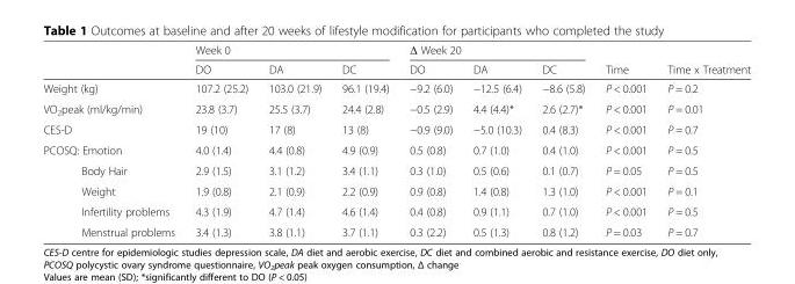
<table><thead><tr><td rowspan="2"></td><td colspan="3">Week 0</td><td colspan="3">Δ Week 20</td><td rowspan="2">Time</td><td rowspan="2">Time x Treatment</td></tr><tr><td>DO</td><td>DA</td><td>DC</td><td>DO</td><td>DA</td><td>DC</td></tr></thead><tbody><tr><td>Weight (kg)</td><td>107.2 (25.2)</td><td>103.0 (21.9)</td><td>96.1 (19.4)</td><td>−9.2 (6.0)</td><td>−12.5 (6.4)</td><td>−8.6 (5.8)</td><td>P &lt; 0.001</td><td>P = 0.2</td></tr><tr><td>VO<sub>2</sub>peak (ml/kg/min)</td><td>23.8 (3.7)</td><td>25.5 (3.7)</td><td>24.4 (2.8)</td><td>−0.5 (2.9)</td><td>4.4 (4.4)*</td><td>2.6 (2.7)*</td><td>P &lt; 0.001</td><td>P = 0.01</td></tr><tr><td>CES-D</td><td>19 (10)</td><td>17 (8)</td><td>13 (8)</td><td>−0.9 (9.0)</td><td>−5.0 (10.3)</td><td>0.4 (8.3)</td><td>P &lt; 0.001</td><td>P = 0.7</td></tr><tr><td>PCOSQ: Emotion</td><td>4.0 (1.4)</td><td>4.4 (0.8)</td><td>4.9 (0.9)</td><td>0.5 (0.8)</td><td>0.7 (1.0)</td><td>0.4 (1.0)</td><td>P &lt; 0.001</td><td>P = 0.5</td></tr><tr><td>Body Hair</td><td>2.9 (1.5)</td><td>3.1 (1.2)</td><td>3.4 (1.1)</td><td>0.3 (1.0)</td><td>0.5 (0.6)</td><td>0.1 (0.7)</td><td>P = 0.05</td><td>P = 0.5</td></tr><tr><td>Weight</td><td>1.9 (0.8)</td><td>2.1 (0.9)</td><td>2.2 (0.9)</td><td>0.9 (0.8)</td><td>1.4 (0.8)</td><td>1.3 (1.0)</td><td>P &lt; 0.001</td><td>P = 0.1</td></tr><tr><td>Infertility problems</td><td>4.3 (1.9)</td><td>4.7 (1.4)</td><td>4.6 (1.4)</td><td>0.4 (0.8)</td><td>0.9 (1.1)</td><td>0.7 (1.0)</td><td>P &lt; 0.001</td><td>P = 0.5</td></tr><tr><td>Menstrual problems</td><td>3.4 (1.3)</td><td>3.8 (1.1)</td><td>3.7 (1.1)</td><td>0.3 (2.2)</td><td>0.5 (1.3)</td><td>0.8 (1.2)</td><td>P = 0.03</td><td>P = 0.7</td></tr></tbody></table>